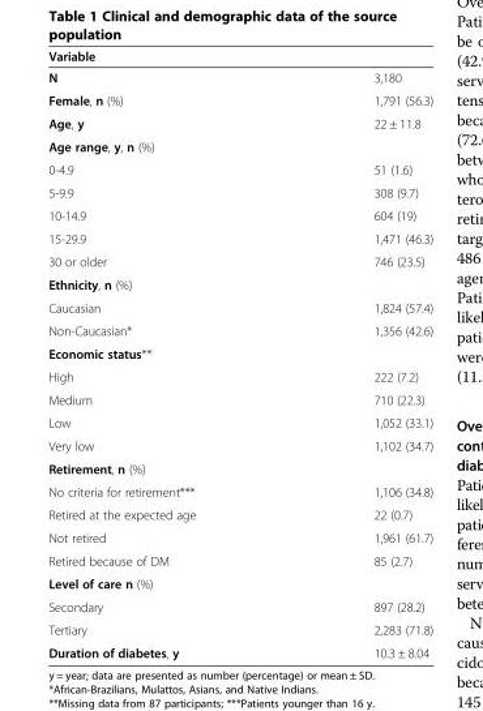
<table><thead><tr><td>Variable</td><td></td></tr></thead><tbody><tr><td>N</td><td>3,180</td></tr><tr><td>Female, n (%)</td><td>1,791 (56.3)</td></tr><tr><td>Age, y</td><td>22 ± 11.8</td></tr><tr><td colspan="2">Age range, y, n (%)</td></tr><tr><td>0-4.9</td><td>51 (1.6)</td></tr><tr><td>5-9.9</td><td>308 (9.7)</td></tr><tr><td>10-14.9</td><td>604 (19)</td></tr><tr><td>15-29.9</td><td>1,471 (46.3)</td></tr><tr><td>30 or older</td><td>746 (23.5)</td></tr><tr><td colspan="2">Ethnicity, n (%)</td></tr><tr><td>Caucasian</td><td>1,824 (57.4)</td></tr><tr><td>Non-Caucasian*</td><td>1,356 (42.6)</td></tr><tr><td colspan="2">Economic status**</td></tr><tr><td>High</td><td>222 (7.2)</td></tr><tr><td>Medium</td><td>710 (22.3)</td></tr><tr><td>Low</td><td>1,052 (33.1)</td></tr><tr><td>Very low</td><td>1,102 (34.7)</td></tr><tr><td colspan="2">Retirement, n (%)</td></tr><tr><td>No criteria for retirement***</td><td>1,106 (34.8)</td></tr><tr><td>Retired at the expected age</td><td>22 (0.7)</td></tr><tr><td>Not retired</td><td>1,961 (61.7)</td></tr><tr><td>Retired because of DM</td><td>85 (2.7)</td></tr><tr><td colspan="2">Level of care n (%)</td></tr><tr><td>Secondary</td><td>897 (28.2)</td></tr><tr><td>Tertiary</td><td>2,283 (71.8)</td></tr><tr><td>Duration of diabetes, y</td><td>10.3 ± 8.04</td></tr></tbody></table>